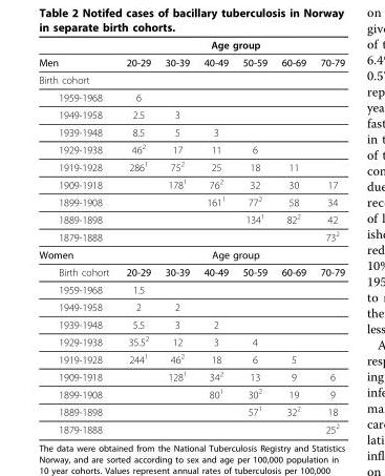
<table><thead><tr><td rowspan="2">Men</td><td colspan="6">Age group</td></tr><tr><td>20-29</td><td>30-39</td><td>40-49</td><td>50-59</td><td>60-69</td><td>70-79</td></tr></thead><tbody><tr><td colspan="7">Birth cohort</td></tr><tr><td>1959-1968</td><td>6</td><td></td><td></td><td></td><td></td><td></td></tr><tr><td>1949-1958</td><td>2.5</td><td>3</td><td></td><td></td><td></td><td></td></tr><tr><td>1939-1948</td><td>8.5</td><td>5</td><td>3</td><td></td><td></td><td></td></tr><tr><td>1929-1938</td><td>46<sup>2</sup></td><td>17</td><td>11</td><td>6</td><td></td><td></td></tr><tr><td>1919-1928</td><td>286<sup>1</sup></td><td>75<sup>2</sup></td><td>25</td><td>18</td><td>11</td><td></td></tr><tr><td>1909-1918</td><td></td><td>178<sup>1</sup></td><td>76<sup>2</sup></td><td>32</td><td>30</td><td>17</td></tr><tr><td>1899-1908</td><td></td><td></td><td>161<sup>1</sup></td><td>77<sup>2</sup></td><td>58</td><td>34</td></tr><tr><td>1889-1898</td><td></td><td></td><td></td><td>134<sup>1</sup></td><td>82<sup>2</sup></td><td>42</td></tr><tr><td>1879-1888</td><td></td><td></td><td></td><td></td><td></td><td>73<sup>2</sup></td></tr><tr><td>Women</td><td colspan="6">Age group</td></tr><tr><td>Birth cohort</td><td>20-29</td><td>30-39</td><td>40-49</td><td>50-59</td><td>60-69</td><td>70-79</td></tr><tr><td>1959-1968</td><td>1.5</td><td></td><td></td><td></td><td></td><td></td></tr><tr><td>1949-1958</td><td>2</td><td>2</td><td></td><td></td><td></td><td></td></tr><tr><td>1939-1948</td><td>5.5</td><td>3</td><td>2</td><td></td><td></td><td></td></tr><tr><td>1929-1938</td><td>35.5<sup>2</sup></td><td>12</td><td>3</td><td>4</td><td></td><td></td></tr><tr><td>1919-1928</td><td>244<sup>1</sup></td><td>46<sup>2</sup></td><td>18</td><td>6</td><td>5</td><td></td></tr><tr><td>1909-1918</td><td></td><td>128<sup>1</sup></td><td>34<sup>2</sup></td><td>13</td><td>9</td><td>6</td></tr><tr><td>1899-1908</td><td></td><td></td><td>80<sup>1</sup></td><td>30<sup>2</sup></td><td>19</td><td>9</td></tr><tr><td>1889-1898</td><td></td><td></td><td></td><td>57<sup>1</sup></td><td>32<sup>2</sup></td><td>18</td></tr><tr><td>1879-1888</td><td></td><td></td><td></td><td></td><td></td><td>25<sup>2</sup></td></tr></tbody></table>